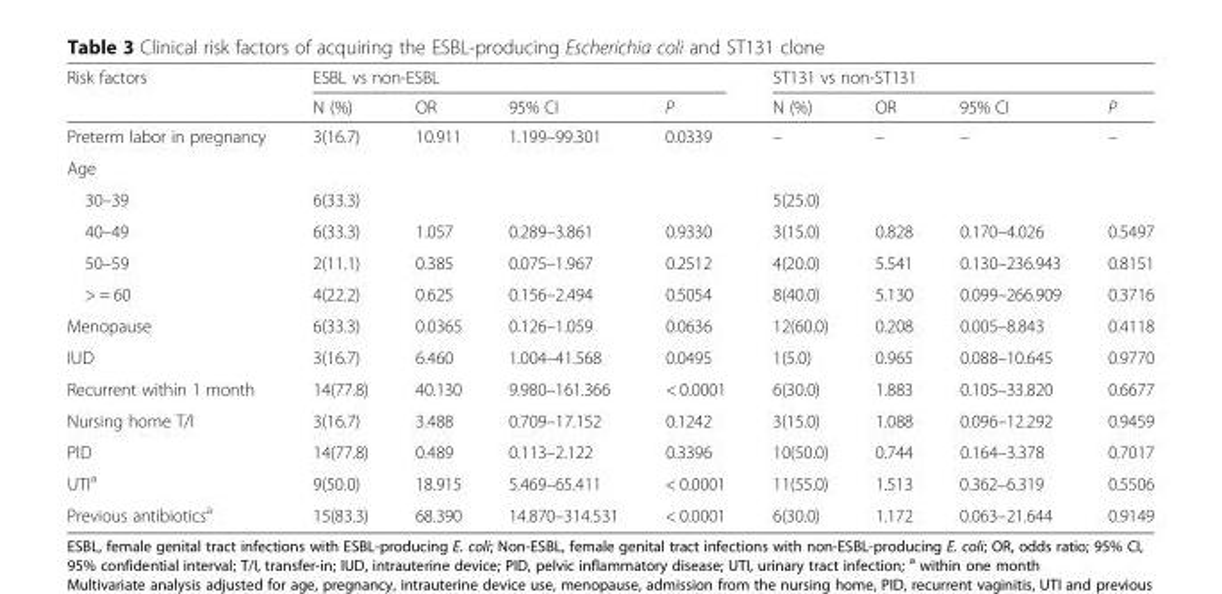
<table><thead><tr><td rowspan="2">Risk factors</td><td colspan="4">ESBL vs non-ESBL</td><td colspan="4">ST131 vs non-ST131</td></tr><tr><td>N (%)</td><td>OR</td><td>95% CI</td><td>P</td><td>N (%)</td><td>OR</td><td>95% CI</td><td>P</td></tr></thead><tbody><tr><td>Preterm labor in pregnancy</td><td>3(16.7)</td><td>10.911</td><td>1.199–99.301</td><td>0.0339</td><td>–</td><td>–</td><td>–</td><td>–</td></tr><tr><td colspan="9">Age</td></tr><tr><td>30–39</td><td>6(33.3)</td><td></td><td></td><td></td><td>5(25.0)</td><td></td><td></td><td></td></tr><tr><td>40–49</td><td>6(33.3)</td><td>1.057</td><td>0.289–3.861</td><td>0.9330</td><td>3(15.0)</td><td>0.828</td><td>0.170–4.026</td><td>0.5497</td></tr><tr><td>50–59</td><td>2(11.1)</td><td>0.385</td><td>0.075–1.967</td><td>0.2512</td><td>4(20.0)</td><td>5.541</td><td>0.130–236.943</td><td>0.8151</td></tr><tr><td>&gt; = 60</td><td>4(22.2)</td><td>0.625</td><td>0.156–2.494</td><td>0.5054</td><td>8(40.0)</td><td>5.130</td><td>0.099–266.909</td><td>0.3716</td></tr><tr><td>Menopause</td><td>6(33.3)</td><td>0.0365</td><td>0.126–1.059</td><td>0.0636</td><td>12(60.0)</td><td>0.208</td><td>0.005–8.843</td><td>0.4118</td></tr><tr><td>IUD</td><td>3(16.7)</td><td>6.460</td><td>1.004–41.568</td><td>0.0495</td><td>1(5.0)</td><td>0.965</td><td>0.088–10.645</td><td>0.9770</td></tr><tr><td>Recurrent within 1 month</td><td>14(77.8)</td><td>40.130</td><td>9.980–161.366</td><td>&lt; 0.0001</td><td>6(30.0)</td><td>1.883</td><td>0.105–33.820</td><td>0.6677</td></tr><tr><td>Nursing home T/I</td><td>3(16.7)</td><td>3.488</td><td>0.709–17.152</td><td>0.1242</td><td>3(15.0)</td><td>1.088</td><td>0.096–12.292</td><td>0.9459</td></tr><tr><td>PID</td><td>14(77.8)</td><td>0.489</td><td>0.113–2.122</td><td>0.3396</td><td>10(50.0)</td><td>0.744</td><td>0.164–3.378</td><td>0.7017</td></tr><tr><td>UTI<sup>a</sup></td><td>9(50.0)</td><td>18.915</td><td>5.469–65.411</td><td>&lt; 0.0001</td><td>11(55.0)</td><td>1.513</td><td>0.362–6.319</td><td>0.5506</td></tr><tr><td>Previous antibiotics<sup>a</sup></td><td>15(83.3)</td><td>68.390</td><td>14.870–314.531</td><td>&lt; 0.0001</td><td>6(30.0)</td><td>1.172</td><td>0.063–21.644</td><td>0.9149</td></tr></tbody></table>